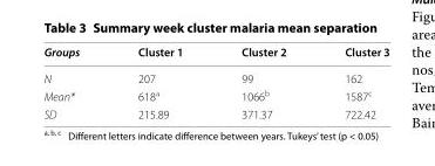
<table><thead><tr><td>Groups</td><td>Cluster 1</td><td>Cluster 2</td><td>Cluster 3</td></tr></thead><tbody><tr><td>N</td><td>207</td><td>99</td><td>162</td></tr><tr><td>Mean*</td><td>618<sup>a</sup></td><td>1066<sup>b</sup></td><td>1587<sup>c</sup></td></tr><tr><td>SD</td><td>215.89</td><td>371.37</td><td>722.42</td></tr></tbody></table>